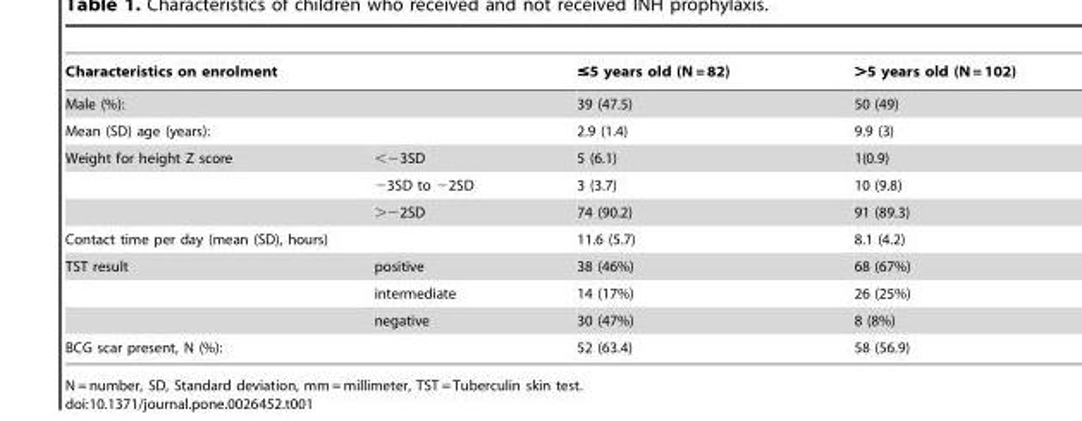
<table><thead><tr><td rowspan="3" colspan="2">Characteristics on enrolment Male (%): Mean (SD) age (years):</td><td rowspan="4">≤5 years old (N = 82) 39 (47.5) 2.9 (1.4) 5 (6.1)</td><td rowspan="4">&gt;5 years old (N = 102) 50 (49) 9.9 (3) 1(0.9)</td></tr><tr></tr><tr></tr><tr><td>Weight for height Z score</td><td>&lt;−3SD</td></tr></thead><tbody><tr><td></td><td>−3SD to −2SD</td><td>3 (3.7)</td><td>10 (9.8)</td></tr><tr><td></td><td>&gt;−2SD</td><td>74 (90.2)</td><td>91 (89.3)</td></tr><tr><td colspan="2">Contact time per day (mean (SD), hours)</td><td>11.6 (5.7)</td><td>8.1 (4.2)</td></tr><tr><td rowspan="3">TST result</td><td>positive</td><td>38 (46%)</td><td>68 (67%)</td></tr><tr><td>intermediate</td><td>14 (17%)</td><td>26 (25%)</td></tr><tr><td>negative</td><td>30 (47%)</td><td>8 (8%)</td></tr><tr><td colspan="2">BCG scar present, N (%):</td><td>52 (63.4)</td><td>58 (56.9)</td></tr></tbody></table>